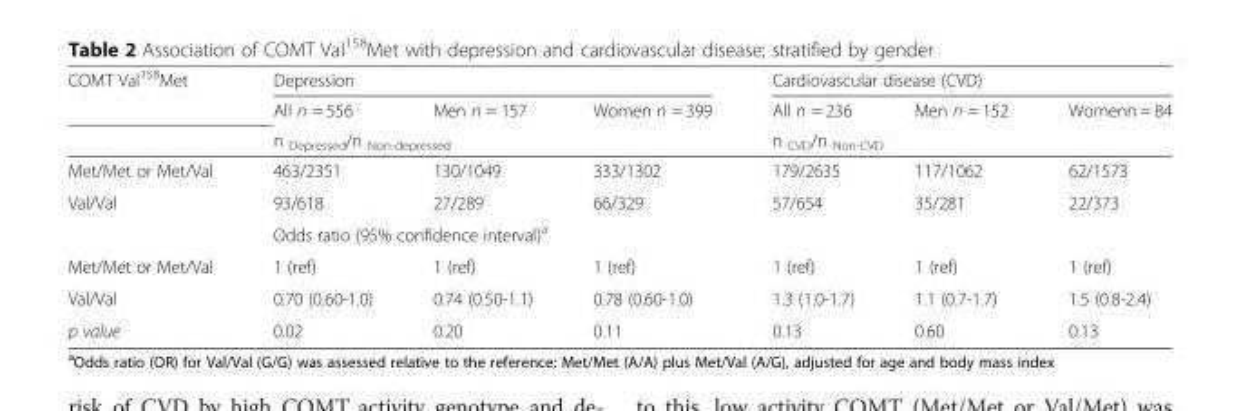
<table><thead><tr><td rowspan="3">COMT Val<sup>158</sup>Met</td><td colspan="3">Depression</td><td colspan="3">Cardiovascular disease (CVD)</td></tr><tr><td>All n = 556</td><td>Men n = 157</td><td>Women n = 399</td><td>All n = 236</td><td>Men n = 152</td><td>Womenn = 84</td></tr><tr><td colspan="3">n <sub>Depressed</sub>/n <sub>Non-depressed</sub></td><td colspan="3">n <sub>CVD</sub>/n <sub>Non-CVD</sub></td></tr></thead><tbody><tr><td>Met/Met or Met/Val</td><td>463/2351</td><td>130/1049</td><td>333/1302</td><td>179/2635</td><td>117/1062</td><td>62/1573</td></tr><tr><td rowspan="2">Val/Val</td><td>93/618</td><td>27/289</td><td>66/329</td><td>57/654</td><td>35/281</td><td>22/373</td></tr><tr><td colspan="6">Odds ratio (95% confidence interval)<sup>a</sup></td></tr><tr><td>Met/Met or Met/Val</td><td>1 (ref)</td><td>1 (ref)</td><td>1 (ref)</td><td>1 (ref)</td><td>1 (ref)</td><td>1 (ref)</td></tr><tr><td>Val/Val</td><td>0.70 (0.60-1.0)</td><td>0.74 (0.50-1.1)</td><td>0.78 (0.60-1.0)</td><td>1.3 (1.0-1.7)</td><td>1.1 (0.7-1.7)</td><td>1.5 (0.8-2.4)</td></tr><tr><td>p value</td><td>0.02</td><td>0.20</td><td>0.11</td><td>0.13</td><td>0.60</td><td>0.13</td></tr></tbody></table>